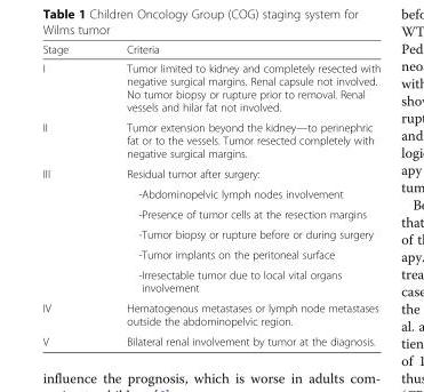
<table><thead><tr><td>Stage</td><td>Criteria</td></tr></thead><tbody><tr><td>I</td><td>Tumor limited to kidney and completely resected with negative surgical margins. Renal capsule not involved. No tumor biopsy or rupture prior to removal. Renal vessels and hilar fat not involved.</td></tr><tr><td>II</td><td>Tumor extension beyond the kidney—to perinephric fat or to the vessels. Tumor resected completely with negative surgical margins.</td></tr><tr><td rowspan="6">III</td><td>Residual tumor after surgery:</td></tr><tr><td>-Abdominopelvic lymph nodes involvement</td></tr><tr><td>-Presence of tumor cells at the resection margins</td></tr><tr><td>-Tumor biopsy or rupture before or during surgery</td></tr><tr><td>-Tumor implants on the peritoneal surface</td></tr><tr><td>-Irresectable tumor due to local vital organs involvement</td></tr><tr><td>IV</td><td>Hematogenous metastases or lymph node metastases outside the abdominopelvic region.</td></tr><tr><td>V</td><td>Bilateral renal involvement by tumor at the diagnosis.</td></tr></tbody></table>